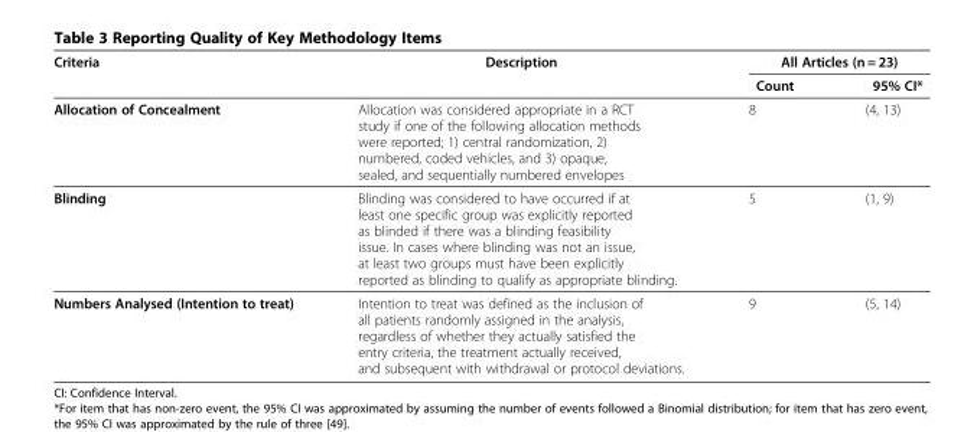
<table><thead><tr><td rowspan="2">Criteria</td><td rowspan="2">Description</td><td colspan="2">All Articles (n = 23)</td></tr><tr><td>Count</td><td>95% CI*</td></tr></thead><tbody><tr><td>Allocation of Concealment</td><td>Allocation was considered appropriate in a RCT study if one of the following allocation methods were reported; 1) central randomization, 2) numbered, coded vehicles, and 3) opaque, sealed, and sequentially numbered envelopes</td><td>8</td><td>(4, 13)</td></tr><tr><td>Blinding</td><td>Blinding was considered to have occurred if at least one specific group was explicitly reported as blinded if there was a blinding feasibility issue. In cases where blinding was not an issue, at least two groups must have been explicitly reported as blinding to qualify as appropriate blinding.</td><td>5</td><td>(1, 9)</td></tr><tr><td>Numbers Analysed (Intention to treat)</td><td>Intention to treat was defined as the inclusion of all patients randomly assigned in the analysis, regardless of whether they actually satisfied the entry criteria, the treatment actually received, and subsequent with withdrawal or protocol deviations.</td><td>9</td><td>(5, 14)</td></tr></tbody></table>